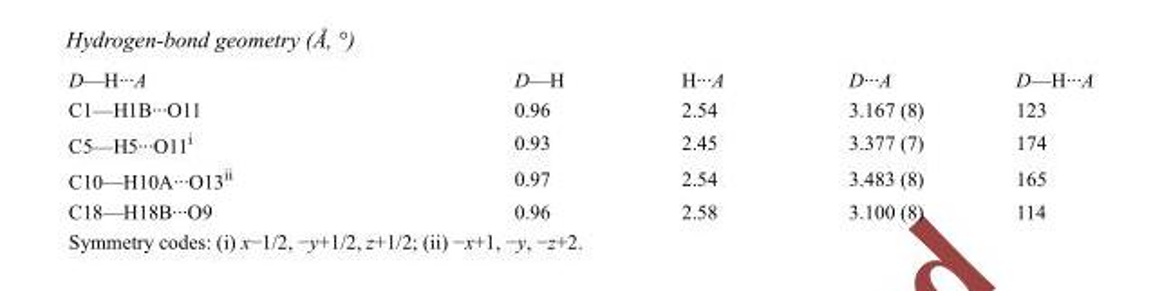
<table><tbody><tr><td>D—H···A</td><td>D—H</td><td>H···A</td><td>D···A</td><td>D—H···A</td></tr><tr><td>C1—H1B···O11</td><td>0.96</td><td>2.54</td><td>3.167 (8)</td><td>123</td></tr><tr><td>C5—H5···O11i</td><td>0.93</td><td>2.45</td><td>3.377 (7)</td><td>174</td></tr><tr><td>C10—H10A···O13ii</td><td>0.97</td><td>2.54</td><td>3.483 (8)</td><td>165</td></tr><tr><td>C18—H18B···O9</td><td>0.96</td><td>2.58</td><td>3.100 (8)</td><td>114</td></tr></tbody></table>